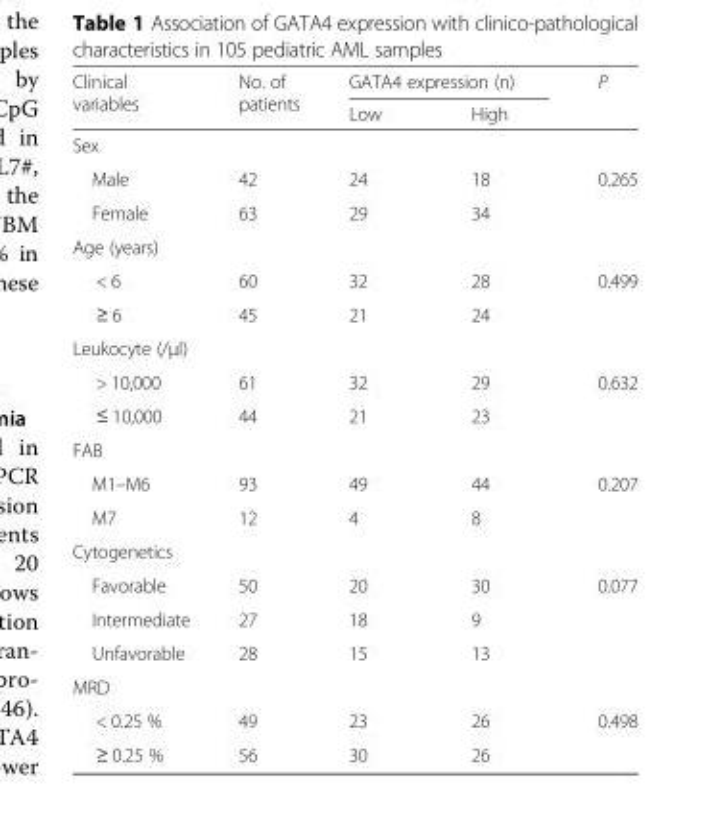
<table><thead><tr><td rowspan="2">Clinical variables</td><td rowspan="2">No. of patients</td><td colspan="2">GATA4 expression (n)</td><td rowspan="2">P</td></tr><tr><td>Low</td><td>High</td></tr></thead><tbody><tr><td colspan="5">Sex</td></tr><tr><td>Male</td><td>42</td><td>24</td><td>18</td><td>0.265</td></tr><tr><td>Female</td><td>63</td><td>29</td><td>34</td><td></td></tr><tr><td colspan="5">Age (years)</td></tr><tr><td>&lt; 6</td><td>60</td><td>32</td><td>28</td><td>0.499</td></tr><tr><td>≥ 6</td><td>45</td><td>21</td><td>24</td><td></td></tr><tr><td colspan="5">Leukocyte (/μl)</td></tr><tr><td>&gt; 10,000</td><td>61</td><td>32</td><td>29</td><td>0.632</td></tr><tr><td>≤ 10,000</td><td>44</td><td>21</td><td>23</td><td></td></tr><tr><td colspan="5">FAB</td></tr><tr><td>M1–M6</td><td>93</td><td>49</td><td>44</td><td>0.207</td></tr><tr><td>M7</td><td>12</td><td>4</td><td>8</td><td></td></tr><tr><td colspan="5">Cytogenetics</td></tr><tr><td>Favorable</td><td>50</td><td>20</td><td>30</td><td>0.077</td></tr><tr><td>Intermediate</td><td>27</td><td>18</td><td>9</td><td></td></tr><tr><td>Unfavorable</td><td>28</td><td>15</td><td>13</td><td></td></tr><tr><td colspan="5">MRD</td></tr><tr><td>&lt; 0.25 %</td><td>49</td><td>23</td><td>26</td><td>0.498</td></tr><tr><td>≥ 0.25 %</td><td>56</td><td>30</td><td>26</td><td></td></tr></tbody></table>